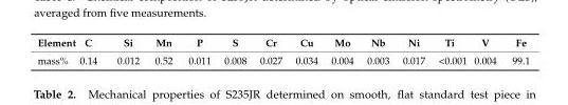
<table><thead><tr><td>Element</td><td>C</td><td>Si</td><td>Mn</td><td>P</td><td>S</td><td>Cr</td><td>Cu</td><td>Mo</td><td>Nb</td><td>Ni</td><td>Ti</td><td>V</td><td>Fe</td></tr></thead><tbody><tr><td>mass%</td><td>0.14</td><td>0.012</td><td>0.52</td><td>0.011</td><td>0.008</td><td>0.027</td><td>0.034</td><td>0.004</td><td>0.003</td><td>0.017</td><td>&lt;0.001</td><td>0.004</td><td>99.1</td></tr></tbody></table>